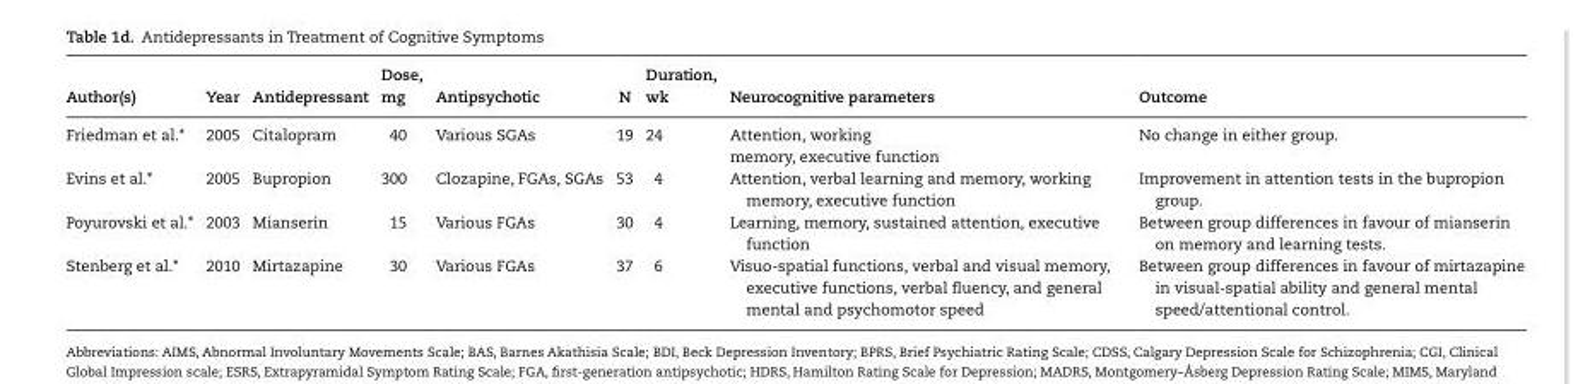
<table><thead><tr><td>Author(s)</td><td>Year</td><td>Antidepressant</td><td>Dose, mg</td><td>Antipsychotic</td><td>N</td><td>Duration, wk</td><td>Neurocognitive parameters</td><td>Outcome</td></tr></thead><tbody><tr><td>Friedman et al.*</td><td>2005</td><td>Citalopram</td><td>40</td><td>Various SGAs</td><td>19</td><td>24</td><td>Attention, working memory, executive function</td><td>No change in either group.</td></tr><tr><td>Evins et al.*</td><td>2005</td><td>Bupropion</td><td>300</td><td>Clozapine, FGAs, SGAs</td><td>53</td><td>4</td><td>Attention, verbal learning and memory, working memory, executive function</td><td>Improvement in attention tests in the bupropion group.</td></tr><tr><td>Poyurovski et al.*</td><td>2003</td><td>Mianserin</td><td>15</td><td>Various FGAs</td><td>30</td><td>4</td><td>Learning, memory, sustained attention, executive function</td><td>Between group differences in favour of mianserin on memory and learning tests.</td></tr><tr><td>Stenberg et al.*</td><td>2010</td><td>Mirtazapine</td><td>30</td><td>Various FGAs</td><td>37</td><td>6</td><td>Visuo-spatial functions, verbal and visual memory, executive functions, verbal fluency, and general mental and psychomotor speed</td><td>Between group differences in favour of mirtazapine in visual-spatial ability and general mental speed/attentional control.</td></tr></tbody></table>